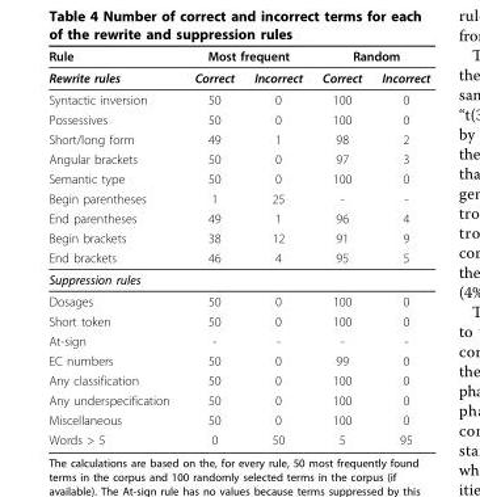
<table><thead><tr><td rowspan="2">Rule Rewrite rules</td><td colspan="2">Most frequent</td><td colspan="2">Random</td></tr><tr><td>Correct</td><td>Incorrect</td><td>Correct</td><td>Incorrect</td></tr></thead><tbody><tr><td>Syntactic inversion</td><td>50</td><td>0</td><td>100</td><td>0</td></tr><tr><td>Possessives</td><td>50</td><td>0</td><td>100</td><td>0</td></tr><tr><td>Short/long form</td><td>49</td><td>1</td><td>98</td><td>2</td></tr><tr><td>Angular brackets</td><td>50</td><td>0</td><td>97</td><td>3</td></tr><tr><td>Semantic type</td><td>50</td><td>0</td><td>100</td><td>0</td></tr><tr><td>Begin parentheses</td><td>1</td><td>25</td><td>-</td><td>-</td></tr><tr><td>End parentheses</td><td>49</td><td>1</td><td>96</td><td>4</td></tr><tr><td>Begin brackets</td><td>38</td><td>12</td><td>91</td><td>9</td></tr><tr><td>End brackets</td><td>46</td><td>4</td><td>95</td><td>5</td></tr><tr><td colspan="5">Suppression rules</td></tr><tr><td>Dosages</td><td>50</td><td>0</td><td>100</td><td>0</td></tr><tr><td>Short token</td><td>50</td><td>0</td><td>100</td><td>0</td></tr><tr><td>At-sign</td><td>-</td><td>-</td><td>-</td><td>-</td></tr><tr><td>EC numbers</td><td>50</td><td>0</td><td>99</td><td>0</td></tr><tr><td>Any classification</td><td>50</td><td>0</td><td>100</td><td>0</td></tr><tr><td>Any underspecification</td><td>50</td><td>0</td><td>100</td><td>0</td></tr><tr><td>Miscellaneous</td><td>50</td><td>0</td><td>100</td><td>0</td></tr><tr><td>Words &gt; 5</td><td>0</td><td>50</td><td>5</td><td>95</td></tr></tbody></table>